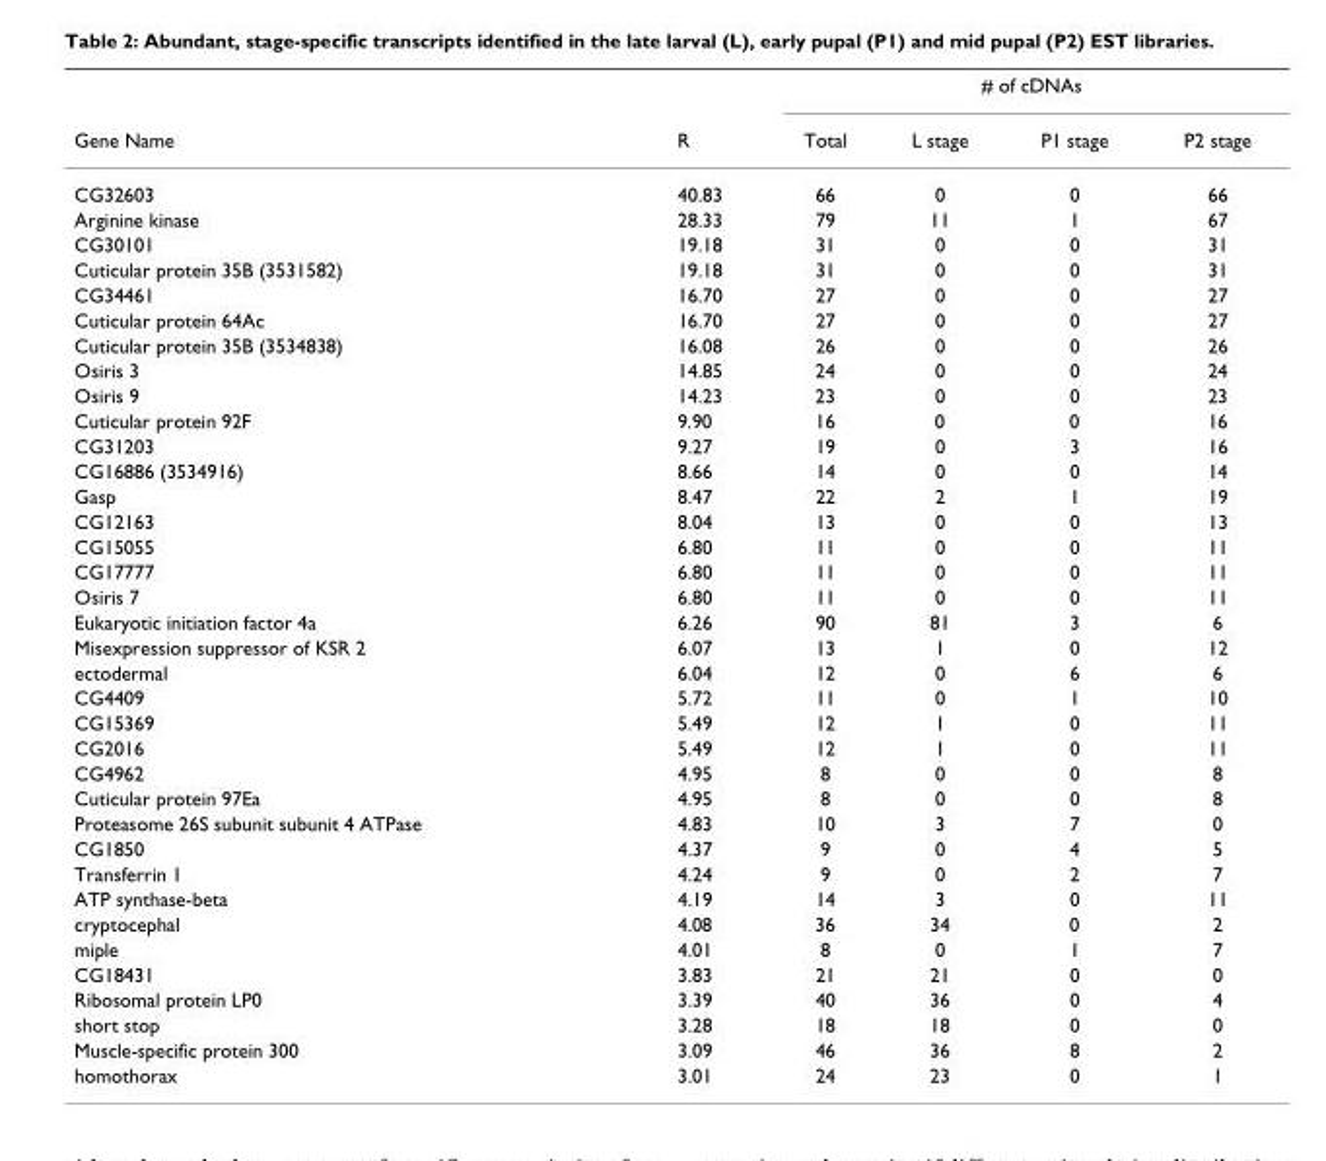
<table><thead><tr><td rowspan="2">Gene Name</td><td rowspan="2">R</td><td colspan="4"># of cDNAs</td></tr><tr><td>Total</td><td>L stage</td><td>P1 stage</td><td>P2 stage</td></tr></thead><tbody><tr><td>CG32603</td><td>40.83</td><td>66</td><td>0</td><td>0</td><td>66</td></tr><tr><td>Arginine kinase</td><td>28.33</td><td>79</td><td>11</td><td>1</td><td>67</td></tr><tr><td>CG30101</td><td>19.18</td><td>31</td><td>0</td><td>0</td><td>31</td></tr><tr><td>Cuticular protein 35B (3531582)</td><td>19.18</td><td>31</td><td>0</td><td>0</td><td>31</td></tr><tr><td>CG34461</td><td>16.70</td><td>27</td><td>0</td><td>0</td><td>27</td></tr><tr><td>Cuticular protein 64Ac</td><td>16.70</td><td>27</td><td>0</td><td>0</td><td>27</td></tr><tr><td>Cuticular protein 35B (3534838)</td><td>16.08</td><td>26</td><td>0</td><td>0</td><td>26</td></tr><tr><td>Osiris 3</td><td>14.85</td><td>24</td><td>0</td><td>0</td><td>24</td></tr><tr><td>Osiris 9</td><td>14.23</td><td>23</td><td>0</td><td>0</td><td>23</td></tr><tr><td>Cuticular protein 92F</td><td>9.90</td><td>16</td><td>0</td><td>0</td><td>16</td></tr><tr><td>CG31203</td><td>9.27</td><td>19</td><td>0</td><td>3</td><td>16</td></tr><tr><td>CG16886 (3534916)</td><td>8.66</td><td>14</td><td>0</td><td>0</td><td>14</td></tr><tr><td>Gasp</td><td>8.47</td><td>22</td><td>2</td><td>1</td><td>19</td></tr><tr><td>CG12163</td><td>8.04</td><td>13</td><td>0</td><td>0</td><td>13</td></tr><tr><td>CG15055</td><td>6.80</td><td>11</td><td>0</td><td>0</td><td>11</td></tr><tr><td>CG17777</td><td>6.80</td><td>11</td><td>0</td><td>0</td><td>11</td></tr><tr><td>Osiris 7</td><td>6.80</td><td>11</td><td>0</td><td>0</td><td>11</td></tr><tr><td>Eukaryotic initiation factor 4a</td><td>6.26</td><td>90</td><td>81</td><td>3</td><td>6</td></tr><tr><td>Misexpression suppressor of KSR 2</td><td>6.07</td><td>13</td><td>1</td><td>0</td><td>12</td></tr><tr><td>ectodermal</td><td>6.04</td><td>12</td><td>0</td><td>6</td><td>6</td></tr><tr><td>CG4409</td><td>5.72</td><td>11</td><td>0</td><td>1</td><td>10</td></tr><tr><td>CG15369</td><td>5.49</td><td>12</td><td>1</td><td>0</td><td>11</td></tr><tr><td>CG2016</td><td>5.49</td><td>12</td><td>1</td><td>0</td><td>11</td></tr><tr><td>CG4962</td><td>4.95</td><td>8</td><td>0</td><td>0</td><td>8</td></tr><tr><td>Cuticular protein 97Ea</td><td>4.95</td><td>8</td><td>0</td><td>0</td><td>8</td></tr><tr><td>Proteasome 26S subunit subunit 4 ATPase</td><td>4.83</td><td>10</td><td>3</td><td>7</td><td>0</td></tr><tr><td>CG1850</td><td>4.37</td><td>9</td><td>0</td><td>4</td><td>5</td></tr><tr><td>Transferrin 1</td><td>4.24</td><td>9</td><td>0</td><td>2</td><td>7</td></tr><tr><td>ATP synthase-beta</td><td>4.19</td><td>14</td><td>3</td><td>0</td><td>11</td></tr><tr><td>cryptocephal</td><td>4.08</td><td>36</td><td>34</td><td>0</td><td>2</td></tr><tr><td>miple</td><td>4.01</td><td>8</td><td>0</td><td>1</td><td>7</td></tr><tr><td>CG18431</td><td>3.83</td><td>21</td><td>21</td><td>0</td><td>0</td></tr><tr><td>Ribosomal protein LP0</td><td>3.39</td><td>40</td><td>36</td><td>0</td><td>4</td></tr><tr><td>short stop</td><td>3.28</td><td>18</td><td>18</td><td>0</td><td>0</td></tr><tr><td>Muscle-specific protein 300</td><td>3.09</td><td>46</td><td>36</td><td>8</td><td>2</td></tr><tr><td>homothorax</td><td>3.01</td><td>24</td><td>23</td><td>0</td><td>1</td></tr></tbody></table>